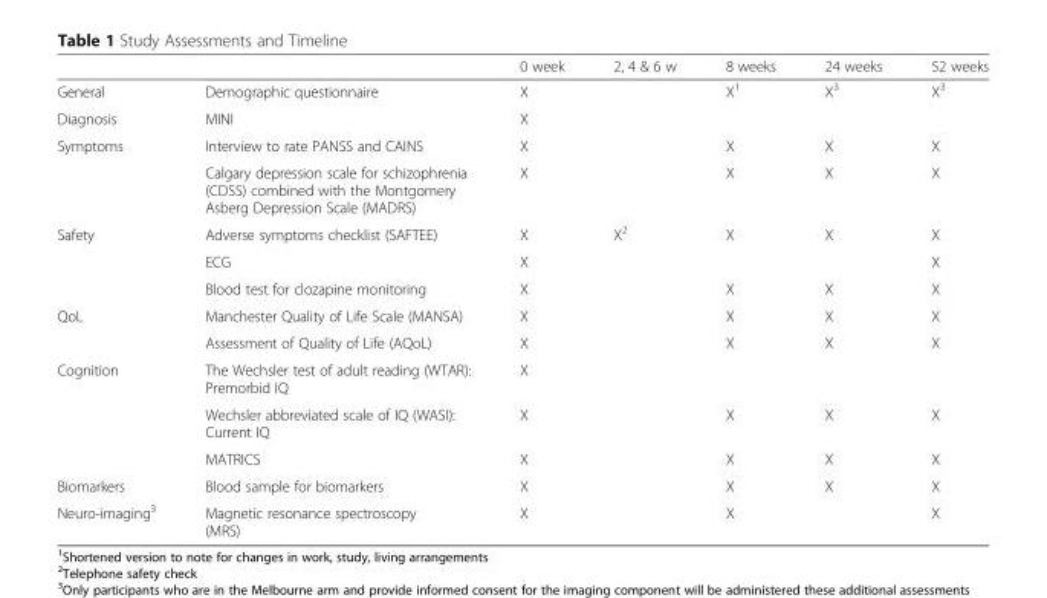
<table><thead><tr><td></td><td></td><td>0 week</td><td>2, 4 &amp; 6 w</td><td>8 weeks</td><td>24 weeks</td><td>52 weeks</td></tr></thead><tbody><tr><td>General</td><td>Demographic questionnaire</td><td>X</td><td></td><td>X<sup>1</sup></td><td>X<sup>3</sup></td><td>X<sup>3</sup></td></tr><tr><td>Diagnosis</td><td>MINI</td><td>X</td><td></td><td></td><td></td><td></td></tr><tr><td rowspan="2">Symptoms</td><td>Interview to rate PANSS and CAINS</td><td>X</td><td></td><td>X</td><td>X</td><td>X</td></tr><tr><td>Calgary depression scale for schizophrenia (CDSS) combined with the Montgomery Asberg Depression Scale (MADRS)</td><td>X</td><td></td><td>X</td><td>X</td><td>X</td></tr><tr><td rowspan="3">Safety</td><td>Adverse symptoms checklist (SAFTEE)</td><td>X</td><td>X<sup>2</sup></td><td>X</td><td>X</td><td>X</td></tr><tr><td>ECG</td><td>X</td><td></td><td></td><td></td><td>X</td></tr><tr><td>Blood test for clozapine monitoring</td><td>X</td><td></td><td>X</td><td>X</td><td>X</td></tr><tr><td rowspan="2">QoL</td><td>Manchester Quality of Life Scale (MANSA)</td><td>X</td><td></td><td>X</td><td>X</td><td>X</td></tr><tr><td>Assessment of Quality of Life (AQoL)</td><td>X</td><td></td><td>X</td><td>X</td><td>X</td></tr><tr><td rowspan="3">Cognition</td><td>The Wechsler test of adult reading (WTAR): Premorbid IQ</td><td>X</td><td></td><td></td><td></td><td></td></tr><tr><td>Wechsler abbreviated scale of IQ (WASI): Current IQ</td><td>X</td><td></td><td>X</td><td>X</td><td>X</td></tr><tr><td>MATRICS</td><td>X</td><td></td><td>X</td><td>X</td><td>X</td></tr><tr><td>Biomarkers</td><td>Blood sample for biomarkers</td><td>X</td><td></td><td>X</td><td>X</td><td>X</td></tr><tr><td>Neuro-imaging<sup>3</sup></td><td>Magnetic resonance spectroscopy (MRS)</td><td>X</td><td></td><td>X</td><td></td><td>X</td></tr></tbody></table>